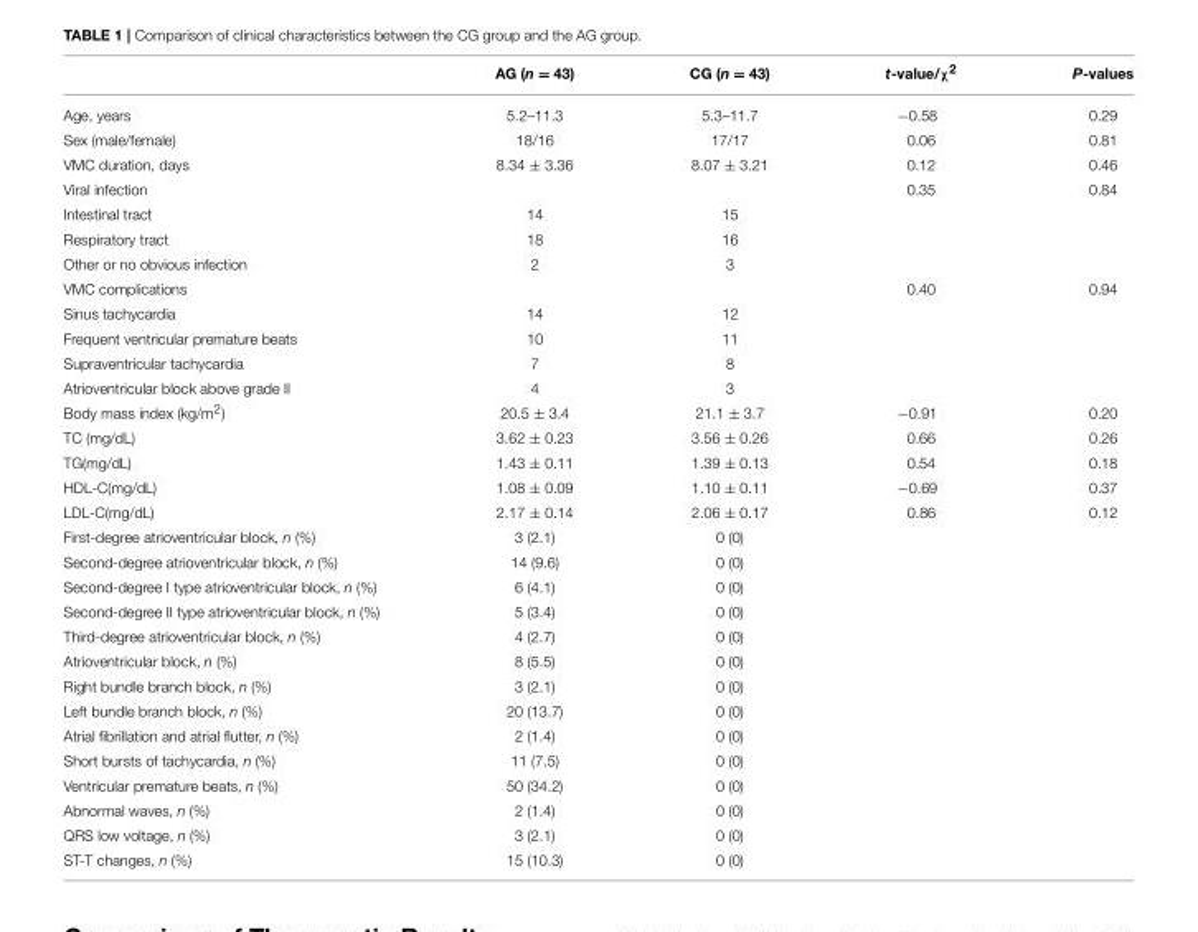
<table><thead><tr><td></td><td>AG (n = 43)</td><td>CG (n = 43)</td><td>t-value/χ<sup>2</sup></td><td>P-values</td></tr></thead><tbody><tr><td>Age, years</td><td>5.2–11.3</td><td>5.3–11.7</td><td>−0.58</td><td>0.29</td></tr><tr><td>Sex (male/female)</td><td>18/16</td><td>17/17</td><td>0.06</td><td>0.81</td></tr><tr><td>VMC duration, days</td><td>8.34 ± 3.36</td><td>8.07 ± 3.21</td><td>0.12</td><td>0.46</td></tr><tr><td>Viral infection</td><td></td><td></td><td>0.35</td><td>0.84</td></tr><tr><td>Intestinal tract</td><td>14</td><td>15</td><td></td><td></td></tr><tr><td>Respiratory tract</td><td>18</td><td>16</td><td></td><td></td></tr><tr><td>Other or no obvious infection</td><td>2</td><td>3</td><td></td><td></td></tr><tr><td>VMC complications</td><td></td><td></td><td>0.40</td><td>0.94</td></tr><tr><td>Sinus tachycardia</td><td>14</td><td>12</td><td></td><td></td></tr><tr><td>Frequent ventricular premature beats</td><td>10</td><td>11</td><td></td><td></td></tr><tr><td>Supraventricular tachycardia</td><td>7</td><td>8</td><td></td><td></td></tr><tr><td>Atrioventricular block above grade II</td><td>4</td><td>3</td><td></td><td></td></tr><tr><td>Body mass index (kg/m<sup>2</sup>)</td><td>20.5 ± 3.4</td><td>21.1 ± 3.7</td><td>−0.91</td><td>0.20</td></tr><tr><td>TC (mg/dL)</td><td>3.62 ± 0.23</td><td>3.56 ± 0.26</td><td>0.66</td><td>0.26</td></tr><tr><td>TG(mg/dL)</td><td>1.43 ± 0.11</td><td>1.39 ± 0.13</td><td>0.54</td><td>0.18</td></tr><tr><td>HDL-C(mg/dL)</td><td>1.08 ± 0.09</td><td>1.10 ± 0.11</td><td>−0.69</td><td>0.37</td></tr><tr><td>LDL-C(mg/dL)</td><td>2.17 ± 0.14</td><td>2.06 ± 0.17</td><td>0.86</td><td>0.12</td></tr><tr><td>First-degree atrioventricular block, n (%)</td><td>3 (2.1)</td><td>0 (0)</td><td></td><td></td></tr><tr><td>Second-degree atrioventricular block, n (%)</td><td>14 (9.6)</td><td>0 (0)</td><td></td><td></td></tr><tr><td>Second-degree I type atrioventricular block, n (%)</td><td>6 (4.1)</td><td>0 (0)</td><td></td><td></td></tr><tr><td>Second-degree II type atrioventricular block, n (%)</td><td>5 (3.4)</td><td>0 (0)</td><td></td><td></td></tr><tr><td>Third-degree atrioventricular block, n (%)</td><td>4 (2.7)</td><td>0 (0)</td><td></td><td></td></tr><tr><td>Atrioventricular block, n (%)</td><td>8 (5.5)</td><td>0 (0)</td><td></td><td></td></tr><tr><td>Right bundle branch block, n (%)</td><td>3 (2.1)</td><td>0 (0)</td><td></td><td></td></tr><tr><td>Left bundle branch block, n (%)</td><td>20 (13.7)</td><td>0 (0)</td><td></td><td></td></tr><tr><td>Atrial fibrillation and atrial flutter, n (%)</td><td>2 (1.4)</td><td>0 (0)</td><td></td><td></td></tr><tr><td>Short bursts of tachycardia, n (%)</td><td>11 (7.5)</td><td>0 (0)</td><td></td><td></td></tr><tr><td>Ventricular premature beats, n (%)</td><td>50 (34.2)</td><td>0 (0)</td><td></td><td></td></tr><tr><td>Abnormal waves, n (%)</td><td>2 (1.4)</td><td>0 (0)</td><td></td><td></td></tr><tr><td>QRS low voltage, n (%)</td><td>3 (2.1)</td><td>0 (0)</td><td></td><td></td></tr><tr><td>ST-T changes, n (%)</td><td>15 (10.3)</td><td>0 (0)</td><td></td><td></td></tr></tbody></table>